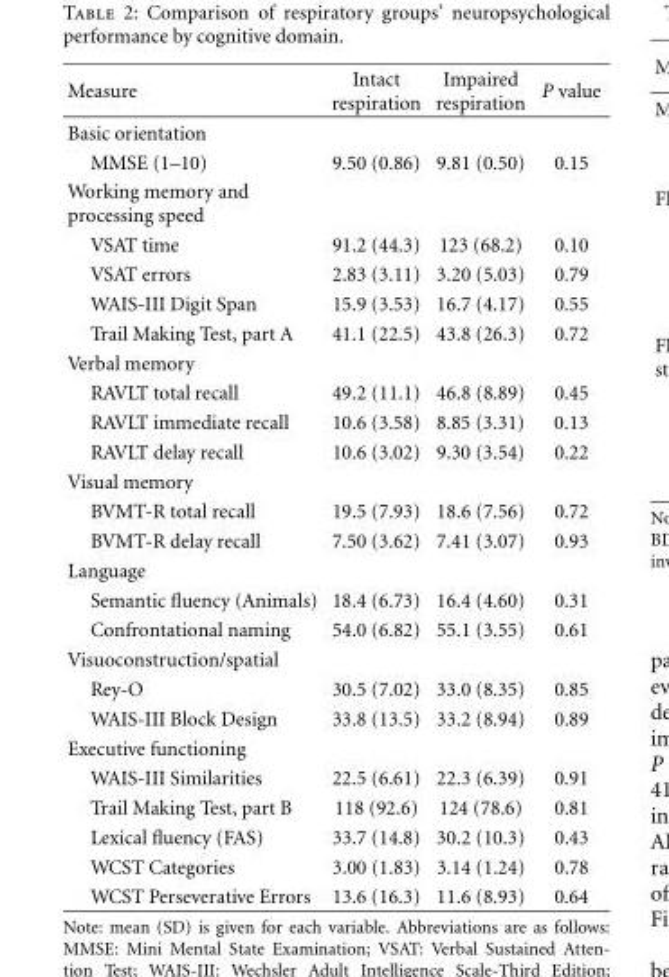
<table><thead><tr><td>Measure</td><td>Intact respiration</td><td>Impaired respiration</td><td>P value</td></tr></thead><tbody><tr><td colspan="4">Basic orientation</td></tr><tr><td>MMSE (1–10)</td><td>9.50 (0.86)</td><td>9.81 (0.50)</td><td>0.15</td></tr><tr><td colspan="4">Working memory and processing speed</td></tr><tr><td>VSAT time</td><td>91.2 (44.3)</td><td>123 (68.2)</td><td>0.10</td></tr><tr><td>VSAT errors</td><td>2.83 (3.11)</td><td>3.20 (5.03)</td><td>0.79</td></tr><tr><td>WAIS-III Digit Span</td><td>15.9 (3.53)</td><td>16.7 (4.17)</td><td>0.55</td></tr><tr><td>Trail Making Test, part A</td><td>41.1 (22.5)</td><td>43.8 (26.3)</td><td>0.72</td></tr><tr><td colspan="4">Verbal memory</td></tr><tr><td>RAVLT total recall</td><td>49.2 (11.1)</td><td>46.8 (8.89)</td><td>0.45</td></tr><tr><td>RAVLT immediate recall</td><td>10.6 (3.58)</td><td>8.85 (3.31)</td><td>0.13</td></tr><tr><td>RAVLT delay recall</td><td>10.6 (3.02)</td><td>9.30 (3.54)</td><td>0.22</td></tr><tr><td colspan="4">Visual memory</td></tr><tr><td>BVMT-R total recall</td><td>19.5 (7.93)</td><td>18.6 (7.56)</td><td>0.72</td></tr><tr><td>BVMT-R delay recall</td><td>7.50 (3.62)</td><td>7.41 (3.07)</td><td>0.93</td></tr><tr><td colspan="4">Language</td></tr><tr><td>Semantic fluency (Animals)</td><td>18.4 (6.73)</td><td>16.4 (4.60)</td><td>0.31</td></tr><tr><td>Confrontational naming</td><td>54.0 (6.82)</td><td>55.1 (3.55)</td><td>0.61</td></tr><tr><td colspan="4">Visuoconstruction/spatial</td></tr><tr><td>Rey-O</td><td>30.5 (7.02)</td><td>33.0 (8.35)</td><td>0.85</td></tr><tr><td>WAIS-III Block Design</td><td>33.8 (13.5)</td><td>33.2 (8.94)</td><td>0.89</td></tr><tr><td colspan="4">Executive functioning</td></tr><tr><td>WAIS-III Similarities</td><td>22.5 (6.61)</td><td>22.3 (6.39)</td><td>0.91</td></tr><tr><td>Trail Making Test, part B</td><td>118 (92.6)</td><td>124 (78.6)</td><td>0.81</td></tr><tr><td>Lexical fluency (FAS)</td><td>33.7 (14.8)</td><td>30.2 (10.3)</td><td>0.43</td></tr><tr><td>WCST Categories</td><td>3.00 (1.83)</td><td>3.14 (1.24)</td><td>0.78</td></tr><tr><td>WCST Perseverative Errors</td><td>13.6 (16.3)</td><td>11.6 (8.93)</td><td>0.64</td></tr></tbody></table>